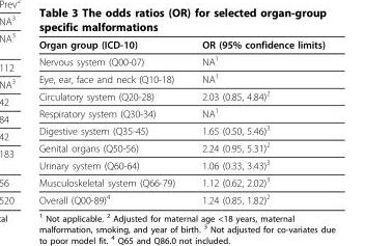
<table><thead><tr><td>Organ group (ICD-10)</td><td>OR (95% confidence limits)</td></tr></thead><tbody><tr><td>Nervous system (Q00-07)</td><td>NA<sup>1</sup></td></tr><tr><td>Eye, ear, face and neck (Q10-18)</td><td>NA<sup>1</sup></td></tr><tr><td>Circulatory system (Q20-28)</td><td>2.03 (0.85, 4.84)<sup>2</sup></td></tr><tr><td>Respiratory system (Q30-34)</td><td>NA<sup>1</sup></td></tr><tr><td>Digestive system (Q35-45)</td><td>1.65 (0.50, 5.46)<sup>3</sup></td></tr><tr><td>Genital organs (Q50-56)</td><td>2.24 (0.95, 5.31)<sup>2</sup></td></tr><tr><td>Urinary system (Q60-64)</td><td>1.06 (0.33, 3.43)<sup>3</sup></td></tr><tr><td>Musculoskeletal system (Q66-79)</td><td>1.12 (0.62, 2.02)<sup>3</sup></td></tr><tr><td>Overall (Q00-89)<sup>4</sup></td><td>1.24 (0.85, 1.82)<sup>2</sup></td></tr></tbody></table>